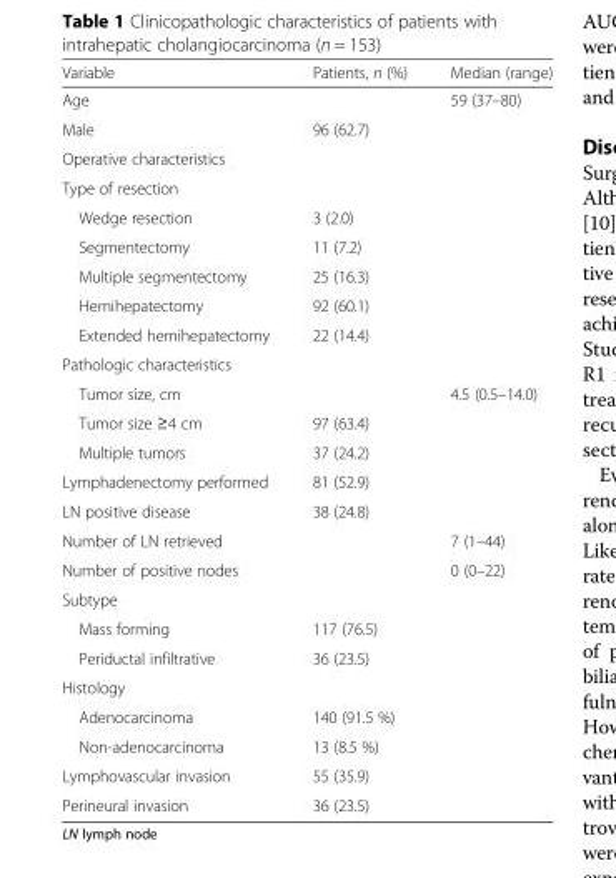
<table><thead><tr><td>Variable</td><td>Patients, n (%)</td><td>Median (range)</td></tr></thead><tbody><tr><td>Age</td><td></td><td>59 (37–80)</td></tr><tr><td>Male</td><td>96 (62.7)</td><td></td></tr><tr><td colspan="3">Operative characteristics</td></tr><tr><td colspan="3">Type of resection</td></tr><tr><td>Wedge resection</td><td>3 (2.0)</td><td></td></tr><tr><td>Segmentectomy</td><td>11 (7.2)</td><td></td></tr><tr><td>Multiple segmentectomy</td><td>25 (16.3)</td><td></td></tr><tr><td>Hemihepatectomy</td><td>92 (60.1)</td><td></td></tr><tr><td>Extended hemihepatectomy</td><td>22 (14.4)</td><td></td></tr><tr><td colspan="3">Pathologic characteristics</td></tr><tr><td>Tumor size, cm</td><td></td><td>4.5 (0.5–14.0)</td></tr><tr><td>Tumor size ≥4 cm</td><td>97 (63.4)</td><td></td></tr><tr><td>Multiple tumors</td><td>37 (24.2)</td><td></td></tr><tr><td>Lymphadenectomy performed</td><td>81 (52.9)</td><td></td></tr><tr><td>LN positive disease</td><td>38 (24.8)</td><td></td></tr><tr><td>Number of LN retrieved</td><td></td><td>7 (1–44)</td></tr><tr><td>Number of positive nodes</td><td></td><td>0 (0–22)</td></tr><tr><td colspan="3">Subtype</td></tr><tr><td>Mass forming</td><td>117 (76.5)</td><td></td></tr><tr><td>Periductal infiltrative</td><td>36 (23.5)</td><td></td></tr><tr><td colspan="3">Histology</td></tr><tr><td>Adenocarcinoma</td><td>140 (91.5 %)</td><td></td></tr><tr><td>Non-adenocarcinoma</td><td>13 (8.5 %)</td><td></td></tr><tr><td>Lymphovascular invasion</td><td>55 (35.9)</td><td></td></tr><tr><td>Perineural invasion</td><td>36 (23.5)</td><td></td></tr></tbody></table>